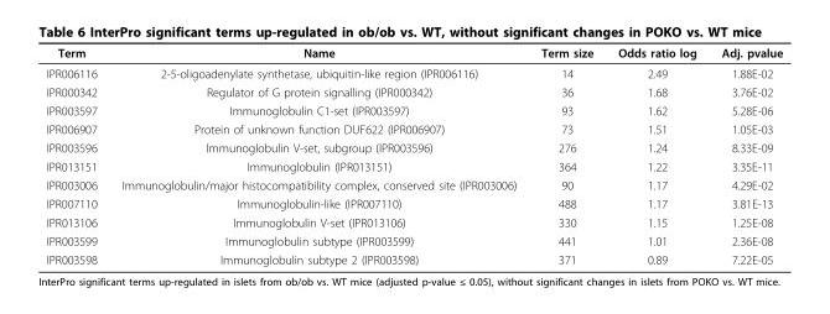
<table><thead><tr><td>Term</td><td>Name</td><td>Term size</td><td>Odds ratio log</td><td>Adj. pvalue</td></tr></thead><tbody><tr><td>IPR006116</td><td>2-5-oligoadenylate synthetase, ubiquitin-like region (IPR006116)</td><td>14</td><td>2.49</td><td>1.88E-02</td></tr><tr><td>IPR000342</td><td>Regulator of G protein signalling (IPR000342)</td><td>36</td><td>1.68</td><td>3.76E-02</td></tr><tr><td>IPR003597</td><td>Immunoglobulin C1-set (IPR003597)</td><td>93</td><td>1.62</td><td>5.28E-06</td></tr><tr><td>IPR006907</td><td>Protein of unknown function DUF622 (IPR006907)</td><td>73</td><td>1.51</td><td>1.05E-03</td></tr><tr><td>IPR003596</td><td>Immunoglobulin V-set, subgroup (IPR003596)</td><td>276</td><td>1.24</td><td>8.33E-09</td></tr><tr><td>IPR013151</td><td>Immunoglobulin (IPR013151)</td><td>364</td><td>1.22</td><td>3.35E-11</td></tr><tr><td>IPR003006</td><td>Immunoglobulin/major histocompatibility complex, conserved site (IPR003006)</td><td>90</td><td>1.17</td><td>4.29E-02</td></tr><tr><td>IPR007110</td><td>Immunoglobulin-like (IPR007110)</td><td>488</td><td>1.17</td><td>3.81E-13</td></tr><tr><td>IPR013106</td><td>Immunoglobulin V-set (IPR013106)</td><td>330</td><td>1.15</td><td>1.25E-08</td></tr><tr><td>IPR003599</td><td>Immunoglobulin subtype (IPR003599)</td><td>441</td><td>1.01</td><td>2.36E-08</td></tr><tr><td>IPR003598</td><td>Immunoglobulin subtype 2 (IPR003598)</td><td>371</td><td>0.89</td><td>7.22E-05</td></tr></tbody></table>